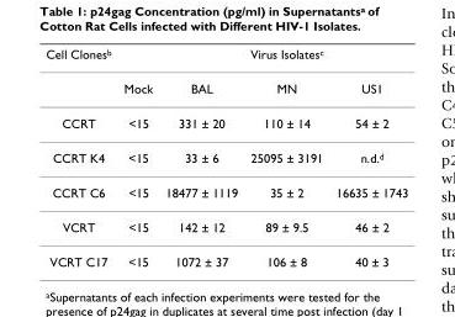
<table><thead><tr><td rowspan="2">Cell Clones<sup>b</sup></td><td rowspan="2">Mock</td><td colspan="3">Virus Isolates<sup>c</sup></td></tr><tr><td>BAL</td><td>MN</td><td>US1</td></tr></thead><tbody><tr><td>CCRT</td><td>&lt;15</td><td>331 ± 20</td><td>110 ± 14</td><td>54 ± 2</td></tr><tr><td>CCRT K4</td><td>&lt;15</td><td>33 ± 6</td><td>25095 ± 3191</td><td>n.d.<sup>d</sup></td></tr><tr><td>CCRT C6</td><td>&lt;15</td><td>18477 ± 1119</td><td>35 ± 2</td><td>16635 ± 1743</td></tr><tr><td>VCRT</td><td>&lt;15</td><td>142 ± 12</td><td>89 ± 9.5</td><td>46 ± 2</td></tr><tr><td>VCRT C17</td><td>&lt;15</td><td>1072 ± 37</td><td>106 ± 8</td><td>40 ± 3</td></tr></tbody></table>